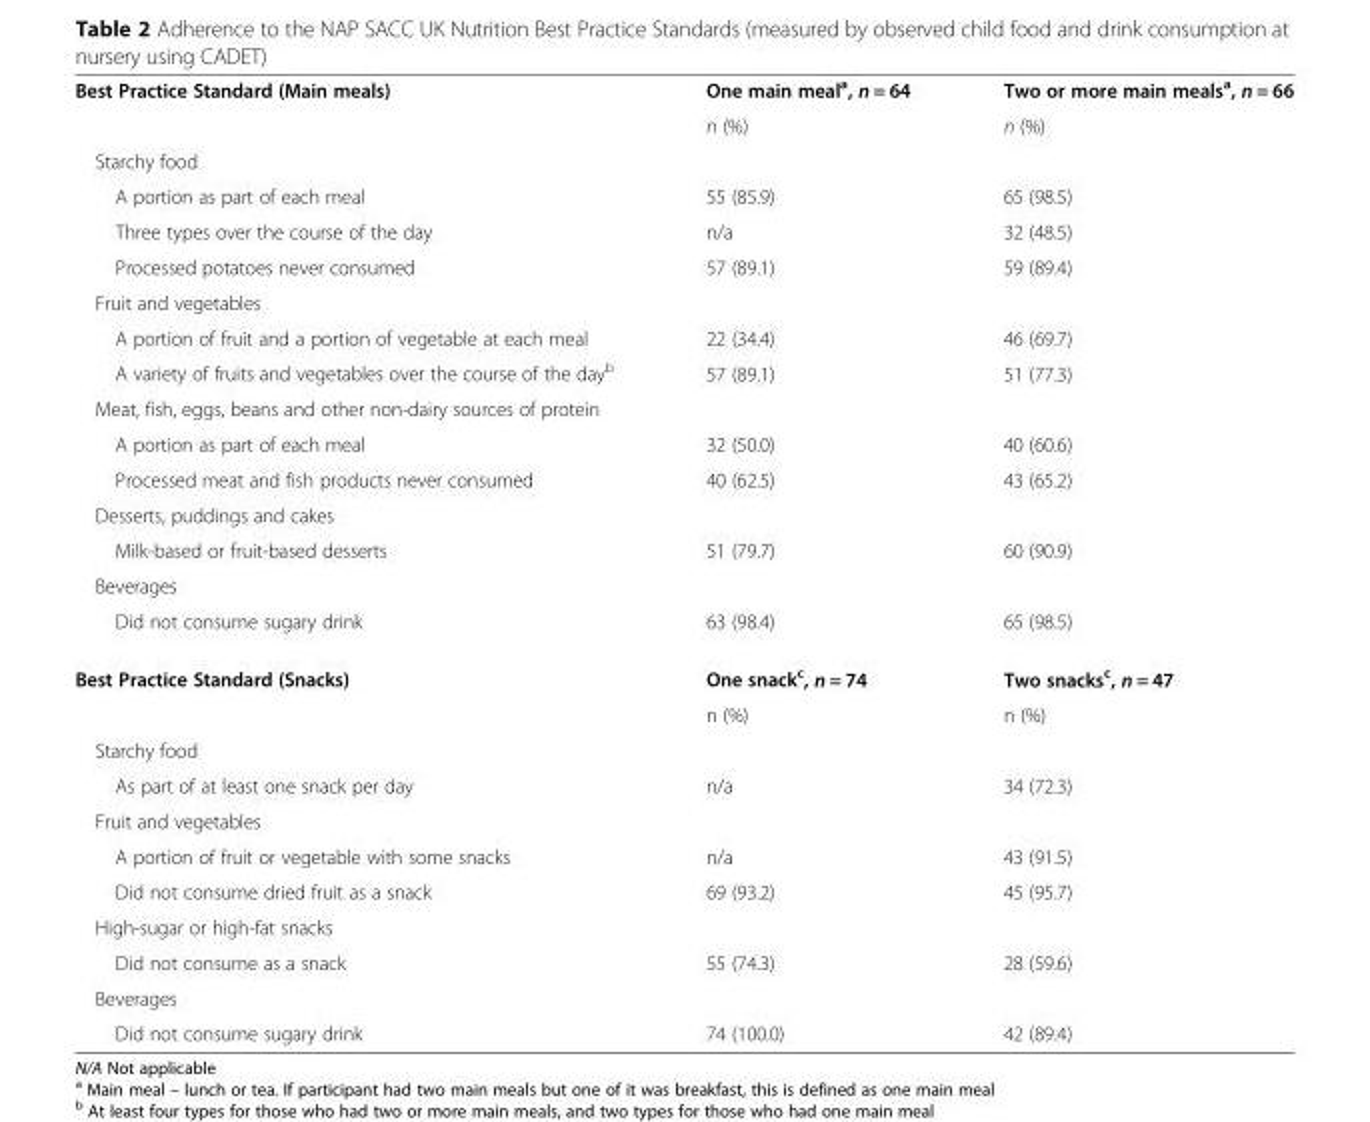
<table><tbody><tr><td rowspan="2">Best Practice Standard (Main meals)</td><td>One main meal<sup>a</sup>, n = 64</td><td>Two or more main meals<sup>a</sup>, n = 66</td></tr><tr><td>n (%)</td><td>n (%)</td></tr><tr><td colspan="3">Starchy food</td></tr><tr><td>A portion as part of each meal</td><td>55 (85.9)</td><td>65 (98.5)</td></tr><tr><td>Three types over the course of the day</td><td>n/a</td><td>32 (48.5)</td></tr><tr><td>Processed potatoes never consumed</td><td>57 (89.1)</td><td>59 (89.4)</td></tr><tr><td colspan="3">Fruit and vegetables</td></tr><tr><td>A portion of fruit and a portion of vegetable at each meal</td><td>22 (34.4)</td><td>46 (69.7)</td></tr><tr><td>A variety of fruits and vegetables over the course of the day<sup>b</sup></td><td>57 (89.1)</td><td>51 (77.3)</td></tr><tr><td colspan="3">Meat, fish, eggs, beans and other non-dairy sources of protein</td></tr><tr><td>A portion as part of each meal</td><td>32 (50.0)</td><td>40 (60.6)</td></tr><tr><td>Processed meat and fish products never consumed</td><td>40 (62.5)</td><td>43 (65.2)</td></tr><tr><td colspan="3">Desserts, puddings and cakes</td></tr><tr><td>Milk-based or fruit-based desserts</td><td>51 (79.7)</td><td>60 (90.9)</td></tr><tr><td colspan="3">Beverages</td></tr><tr><td>Did not consume sugary drink</td><td>63 (98.4)</td><td>65 (98.5)</td></tr><tr><td rowspan="2">Best Practice Standard (Snacks)</td><td>One snack<sup>c</sup>, n = 74</td><td>Two snacks<sup>c</sup>, n = 47</td></tr><tr><td>n (%)</td><td>n (%)</td></tr><tr><td colspan="3">Starchy food</td></tr><tr><td>As part of at least one snack per day</td><td>n/a</td><td>34 (72.3)</td></tr><tr><td colspan="3">Fruit and vegetables</td></tr><tr><td>A portion of fruit or vegetable with some snacks</td><td>n/a</td><td>43 (91.5)</td></tr><tr><td>Did not consume dried fruit as a snack</td><td>69 (93.2)</td><td>45 (95.7)</td></tr><tr><td colspan="3">High-sugar or high-fat snacks</td></tr><tr><td>Did not consume as a snack</td><td>55 (74.3)</td><td>28 (59.6)</td></tr><tr><td colspan="3">Beverages</td></tr><tr><td>Did not consume sugary drink</td><td>74 (100.0)</td><td>42 (89.4)</td></tr></tbody></table>